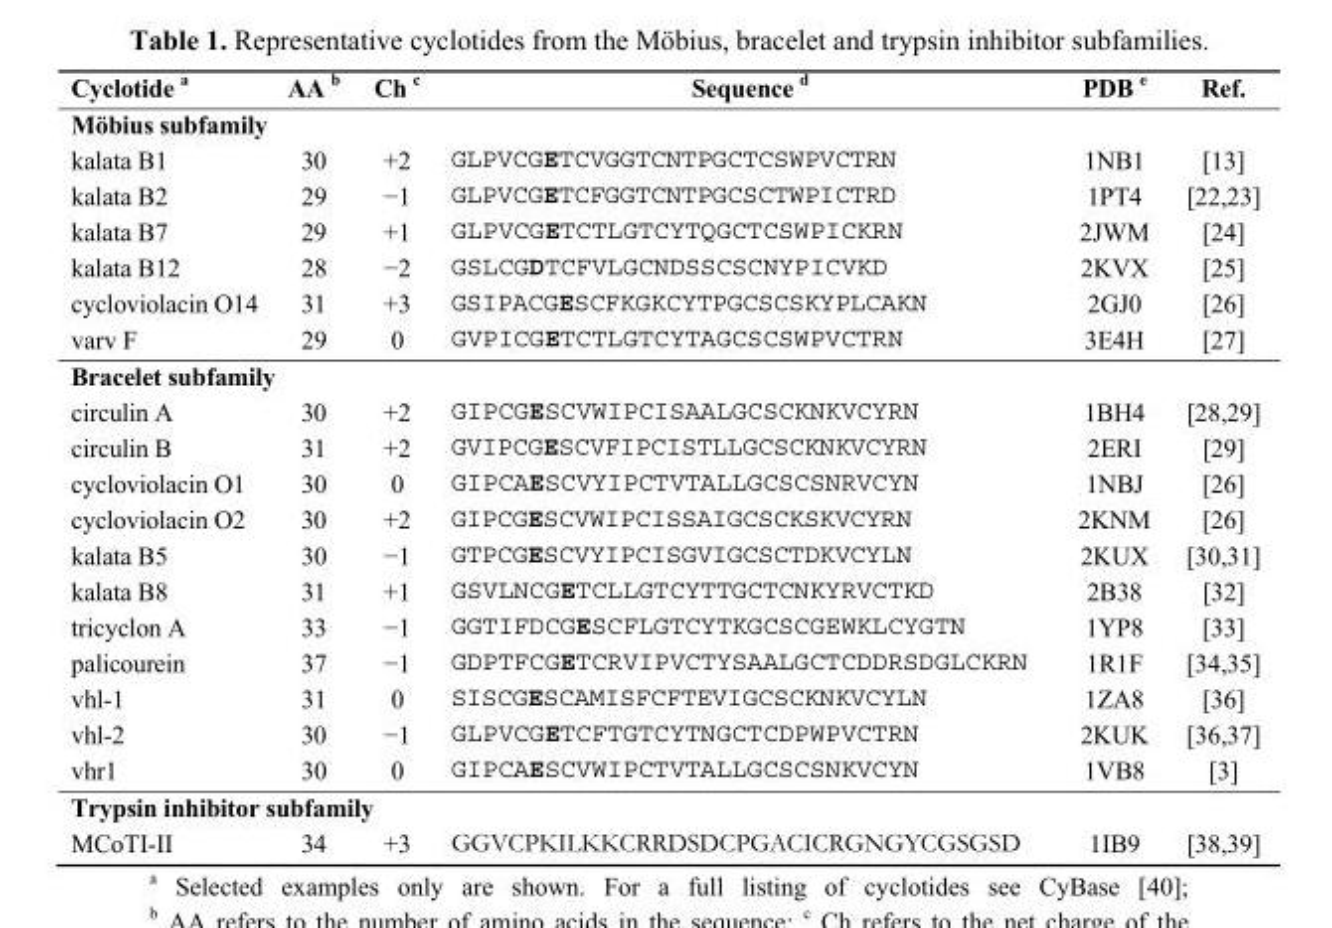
<table><thead><tr><td>Cyclotide <sup>a</sup></td><td>AA <sup>b</sup></td><td>Ch <sup>c</sup></td><td>Sequence <sup>d</sup></td><td>PDB <sup>e</sup></td><td>Ref.</td></tr></thead><tbody><tr><td colspan="6">Möbius subfamily</td></tr><tr><td>kalata B1</td><td>30</td><td>+2</td><td>GLPVCGETCVGGTCNTPGCTCSWPVCTRN</td><td>1NB1</td><td>[13]</td></tr><tr><td>kalata B2</td><td>29</td><td>−1</td><td>GLPVCGETCFGGTCNTPGCSCTWPICTRD</td><td>1PT4</td><td>[22,23]</td></tr><tr><td>kalata B7</td><td>29</td><td>+1</td><td>GLPVCGETCTLGTCYTQGCTCSWPICKRN</td><td>2JWM</td><td>[24]</td></tr><tr><td>kalata B12</td><td>28</td><td>−2</td><td>GSLCGDTCFVLGCNDSSCSCNYPICVKD</td><td>2KVX</td><td>[25]</td></tr><tr><td>cycloviolacin O14</td><td>31</td><td>+3</td><td>GSIPACGESCFKGKCYTPGCSCSKYPLCAKN</td><td>2GJ0</td><td>[26]</td></tr><tr><td>varv F</td><td>29</td><td>0</td><td>GVPICGETCTLGTCYTAGCSCSWPVCTRN</td><td>3E4H</td><td>[27]</td></tr><tr><td colspan="6">Bracelet subfamily</td></tr><tr><td>circulin A</td><td>30</td><td>+2</td><td>GIPCGESCVWIPCISAALGCSCKNKVCYRN</td><td>1BH4</td><td>[28,29]</td></tr><tr><td>circulin B</td><td>31</td><td>+2</td><td>GVIPCGESCVFIPCISTLLGCSCKNKVCYRN</td><td>2ERI</td><td>[29]</td></tr><tr><td>cycloviolacin O1</td><td>30</td><td>0</td><td>GIPCAESCVYIPCTVTALLGCSCSNRVCYN</td><td>1NBJ</td><td>[26]</td></tr><tr><td>cycloviolacin O2</td><td>30</td><td>+2</td><td>GIPCGESCVWIPCISSAIGCSCKSKVCYRN</td><td>2KNM</td><td>[26]</td></tr><tr><td>kalata B5</td><td>30</td><td>−1</td><td>GTPCGESCVYIPCISGVIGCSCTDKVCYLN</td><td>2KUX</td><td>[30,31]</td></tr><tr><td>kalata B8</td><td>31</td><td>+1</td><td>GSVLNCGETCLLGTCYTTGCTCNKYRVCTKD</td><td>2B38</td><td>[32]</td></tr><tr><td>tricyclon A</td><td>33</td><td>−1</td><td>GGTIFDCGESCFLGTCYTKGCSCGEWKLCYGTN</td><td>1YP8</td><td>[33]</td></tr><tr><td>palicourein</td><td>37</td><td>−1</td><td>GDPTFCGETCRVIPVCTYSAALGCTCDDRSDGLCKRN</td><td>1R1F</td><td>[34,35]</td></tr><tr><td>vhl-1</td><td>31</td><td>0</td><td>SISCGESCAMISFCFTEVIGCSCKNKVCYLN</td><td>1ZA8</td><td>[36]</td></tr><tr><td>vhl-2</td><td>30</td><td>−1</td><td>GLPVCGETCFTGTCYTNGCTCDPWPVCTRN</td><td>2KUK</td><td>[36,37]</td></tr><tr><td>vhr1</td><td>30</td><td>0</td><td>GIPCAESCVWIPCTVTALLGCSCSNKVCYN</td><td>1VB8</td><td>[3]</td></tr><tr><td colspan="6">Trypsin inhibitor subfamily</td></tr><tr><td>MCoTI-II</td><td>34</td><td>+3</td><td>GGVCPKILKKCRRDSDCPGACICRGNGYCGSGSD</td><td>1IB9</td><td>[38,39]</td></tr></tbody></table>